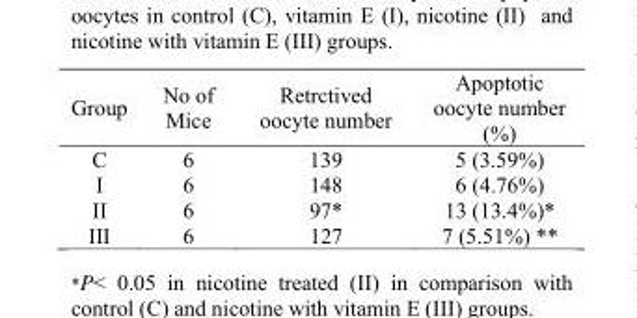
<table><thead><tr><td>Group</td><td>No of Mice</td><td>Retrctived oocyte number</td><td>Apoptotic oocyte number (%)</td></tr></thead><tbody><tr><td>C</td><td>6</td><td>139</td><td>5 (3.59%)</td></tr><tr><td>I</td><td>6</td><td>148</td><td>6 (4.76%)</td></tr><tr><td>II</td><td>6</td><td>97*</td><td>13 (13.4%)*</td></tr><tr><td>III</td><td>6</td><td>127</td><td>7 (5.51%) **</td></tr></tbody></table>